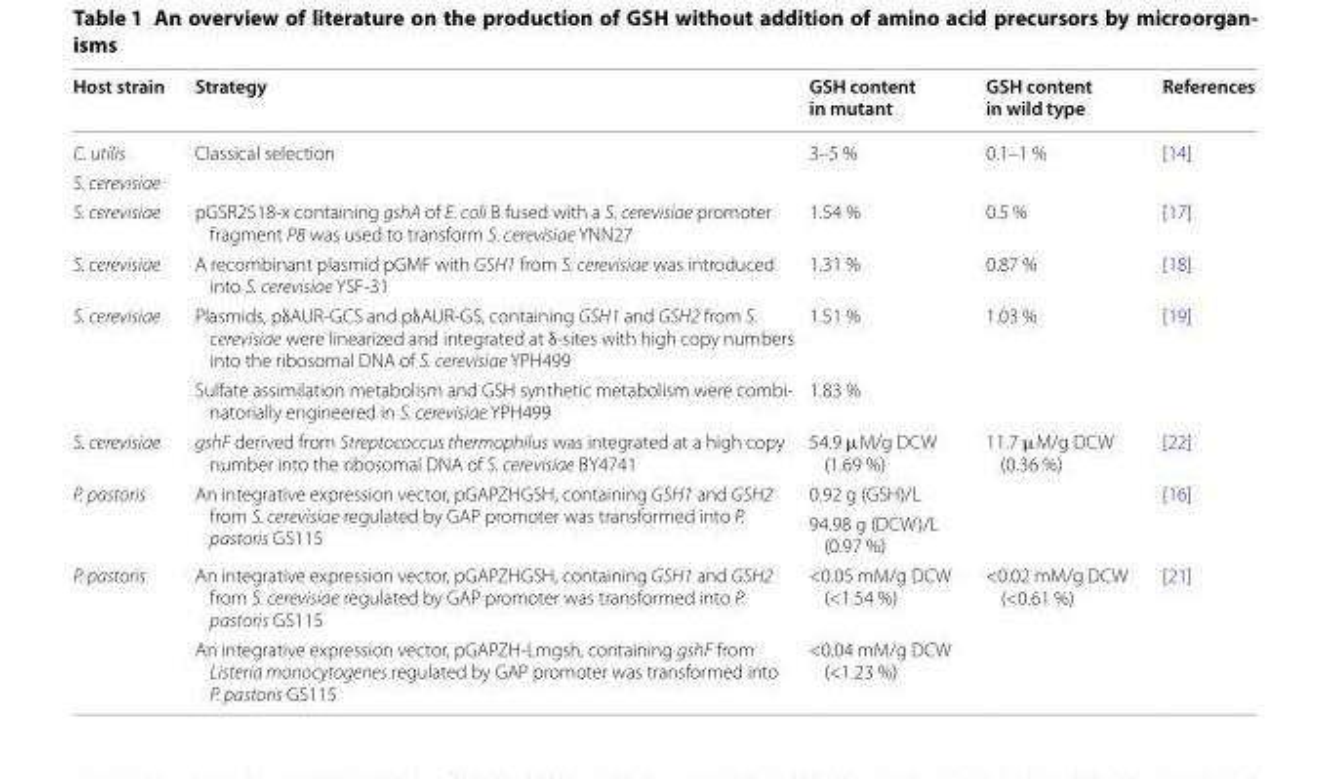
<table><thead><tr><td>Host strain</td><td>Strategy</td><td>GSH content in mutant</td><td>GSH content in wild type</td><td>References</td></tr></thead><tbody><tr><td>C. utilis</td><td rowspan="2">Classical selection</td><td rowspan="2">3–5 %</td><td rowspan="2">0.1–1 %</td><td rowspan="2">[14]</td></tr><tr><td>S. cerevisiae</td></tr><tr><td>S. cerevisiae</td><td>pGSR2518-x containing gshA of E. coli B fused with a S. cerevisiae promoter fragment P8 was used to transform S. cerevisiae YNN27</td><td>1.54 %</td><td>0.5 %</td><td>[17]</td></tr><tr><td>S. cerevisiae</td><td>A recombinant plasmid pGMF with GSH1 from S. cerevisiae was introduced into S. cerevisiae YSF-31</td><td>1.31 %</td><td>0.87 %</td><td>[18]</td></tr><tr><td rowspan="2">S. cerevisiae</td><td>Plasmids, pδAUR-GCS and pδAUR-GS, containing GSH1 and GSH2 from S. cerevisiae were linearized and integrated at δ-sites with high copy numbers into the ribosomal DNA of S. cerevisiae YPH499</td><td>1.51 %</td><td rowspan="2">1.03 %</td><td rowspan="2">[19]</td></tr><tr><td>Sulfate assimilation metabolism and GSH synthetic metabolism were combi- natorially engineered in S. cerevisiae YPH499</td><td>1.83 %</td></tr><tr><td>S. cerevisiae</td><td>gshF derived from Streptococcus thermophilus was integrated at a high copy number into the ribosomal DNA of S. cerevisiae BY4741</td><td>54.9 μM/g DCW (1.69 %)</td><td>11.7 μM/g DCW (0.36 %)</td><td>[22]</td></tr><tr><td rowspan="2">P. pastoris</td><td rowspan="2">An integrative expression vector, pGAPZHGSH, containing GSH1 and GSH2 from S. cerevisiae regulated by GAP promoter was transformed into P. pastoris GS115</td><td>0.92 g (GSH)/L</td><td rowspan="2"></td><td rowspan="2">[16]</td></tr><tr><td>94.98 g (DCW)/L (0.97 %)</td></tr><tr><td rowspan="2">P. pastoris</td><td>An integrative expression vector, pGAPZHGSH, containing GSH1 and GSH2 from S. cerevisiae regulated by GAP promoter was transformed into P. pastoris GS115</td><td>&lt;0.05 mM/g DCW (&lt;1.54 %)</td><td rowspan="2">&lt;0.02 mM/g DCW (&lt;0.61 %)</td><td rowspan="2">[21]</td></tr><tr><td>An integrative expression vector, pGAPZH-Lmgsh, containing gshF from Listeria monocytogenes regulated by GAP promoter was transformed into P. pastoris GS115</td><td>&lt;0.04 mM/g DCW (&lt;1.23 %)</td></tr></tbody></table>